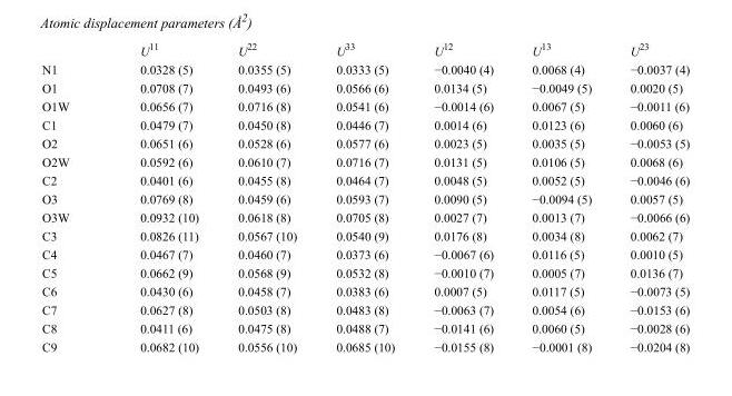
<table><thead><tr><td></td><td>U<sup>11</sup></td><td>U<sup>22</sup></td><td>U<sup>33</sup></td><td>U<sup>12</sup></td><td>U<sup>13</sup></td><td>U<sup>23</sup></td></tr></thead><tbody><tr><td>N1</td><td>0.0328 (5)</td><td>0.0355 (5)</td><td>0.0333 (5)</td><td>−0.0040 (4)</td><td>0.0068 (4)</td><td>−0.0037 (4)</td></tr><tr><td>O1</td><td>0.0708 (7)</td><td>0.0493 (6)</td><td>0.0566 (6)</td><td>0.0134 (5)</td><td>−0.0049 (5)</td><td>0.0020 (5)</td></tr><tr><td>O1W</td><td>0.0656 (7)</td><td>0.0716 (8)</td><td>0.0541 (6)</td><td>−0.0014 (6)</td><td>0.0067 (5)</td><td>−0.0011 (6)</td></tr><tr><td>C1</td><td>0.0479 (7)</td><td>0.0450 (8)</td><td>0.0446 (7)</td><td>0.0014 (6)</td><td>0.0123 (6)</td><td>0.0060 (6)</td></tr><tr><td>O2</td><td>0.0651 (6)</td><td>0.0528 (6)</td><td>0.0577 (6)</td><td>0.0023 (5)</td><td>0.0035 (5)</td><td>−0.0053 (5)</td></tr><tr><td>O2W</td><td>0.0592 (6)</td><td>0.0610 (7)</td><td>0.0716 (7)</td><td>0.0131 (5)</td><td>0.0106 (5)</td><td>0.0068 (6)</td></tr><tr><td>C2</td><td>0.0401 (6)</td><td>0.0455 (8)</td><td>0.0464 (7)</td><td>0.0048 (5)</td><td>0.0052 (5)</td><td>−0.0046 (6)</td></tr><tr><td>O3</td><td>0.0769 (8)</td><td>0.0459 (6)</td><td>0.0593 (7)</td><td>0.0090 (5)</td><td>−0.0094 (5)</td><td>0.0057 (5)</td></tr><tr><td>O3W</td><td>0.0932 (10)</td><td>0.0618 (8)</td><td>0.0705 (8)</td><td>0.0027 (7)</td><td>0.0013 (7)</td><td>−0.0066 (6)</td></tr><tr><td>C3</td><td>0.0826 (11)</td><td>0.0567 (10)</td><td>0.0540 (9)</td><td>0.0176 (8)</td><td>0.0034 (8)</td><td>0.0062 (7)</td></tr><tr><td>C4</td><td>0.0467 (7)</td><td>0.0460 (7)</td><td>0.0373 (6)</td><td>−0.0067 (6)</td><td>0.0116 (5)</td><td>0.0010 (5)</td></tr><tr><td>C5</td><td>0.0662 (9)</td><td>0.0568 (9)</td><td>0.0532 (8)</td><td>−0.0010 (7)</td><td>0.0005 (7)</td><td>0.0136 (7)</td></tr><tr><td>C6</td><td>0.0430 (6)</td><td>0.0458 (7)</td><td>0.0383 (6)</td><td>0.0007 (5)</td><td>0.0117 (5)</td><td>−0.0073 (5)</td></tr><tr><td>C7</td><td>0.0627 (8)</td><td>0.0503 (8)</td><td>0.0483 (8)</td><td>−0.0063 (7)</td><td>0.0054 (6)</td><td>−0.0153 (6)</td></tr><tr><td>C8</td><td>0.0411 (6)</td><td>0.0475 (8)</td><td>0.0488 (7)</td><td>−0.0141 (6)</td><td>0.0060 (5)</td><td>−0.0028 (6)</td></tr><tr><td>C9</td><td>0.0682 (10)</td><td>0.0556 (10)</td><td>0.0685 (10)</td><td>−0.0155 (8)</td><td>−0.0001 (8)</td><td>−0.0204 (8)</td></tr></tbody></table>